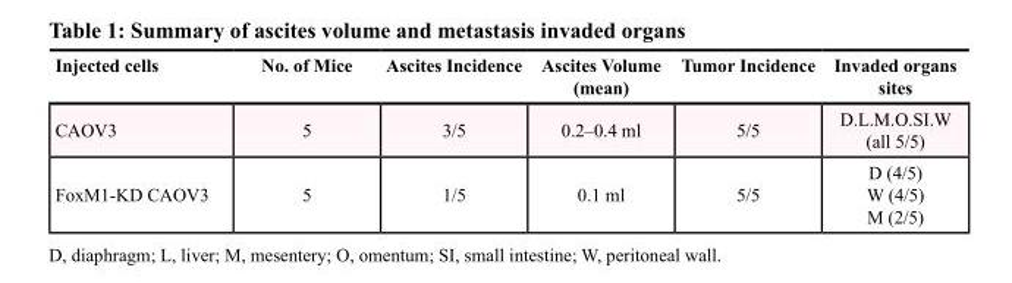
<table><thead><tr><td>Injected cells</td><td>No. of Mice</td><td>Ascites Incidence</td><td>Ascites Volume (mean)</td><td>Tumor Incidence</td><td>Invaded organs sites</td></tr></thead><tbody><tr><td>CAOV3</td><td>5</td><td>3/5</td><td>0.2–0.4 ml</td><td>5/5</td><td>D.L.M.O.SI.W (all 5/5)</td></tr><tr><td>FoxM1-KD CAOV3</td><td>5</td><td>1/5</td><td>0.1 ml</td><td>5/5</td><td>D (4/5) W (4/5) M (2/5)</td></tr></tbody></table>